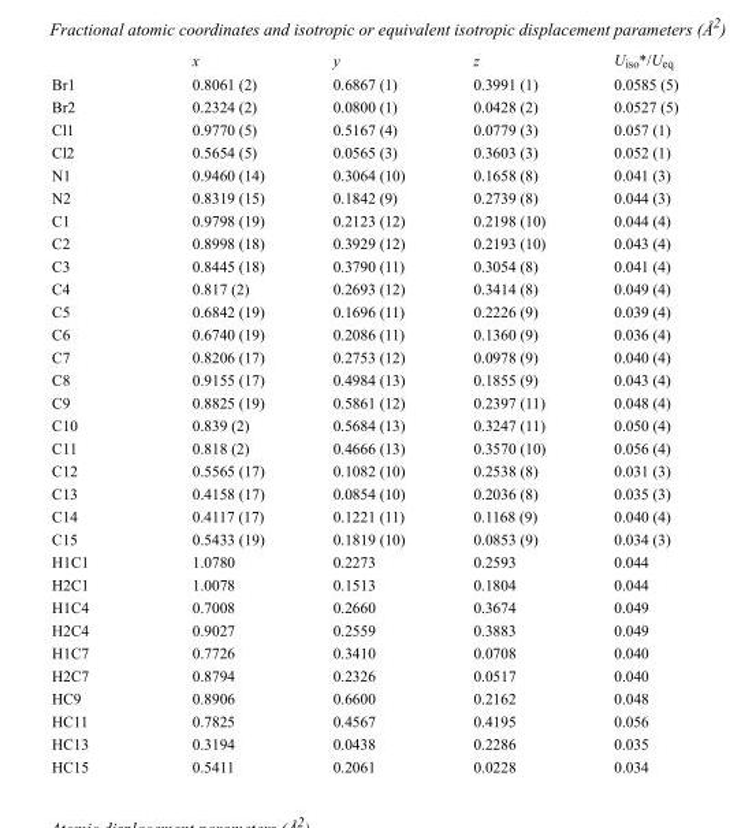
<table><thead><tr><td></td><td>x</td><td>y</td><td>z</td><td>U<sub>iso</sub>*/U<sub>eq</sub></td></tr></thead><tbody><tr><td>Br1</td><td>0.8061 (2)</td><td>0.6867 (1)</td><td>0.3991 (1)</td><td>0.0585 (5)</td></tr><tr><td>Br2</td><td>0.2324 (2)</td><td>0.0800 (1)</td><td>0.0428 (2)</td><td>0.0527 (5)</td></tr><tr><td>Cl1</td><td>0.9770 (5)</td><td>0.5167 (4)</td><td>0.0779 (3)</td><td>0.057 (1)</td></tr><tr><td>Cl2</td><td>0.5654 (5)</td><td>0.0565 (3)</td><td>0.3603 (3)</td><td>0.052 (1)</td></tr><tr><td>N1</td><td>0.9460 (14)</td><td>0.3064 (10)</td><td>0.1658 (8)</td><td>0.041 (3)</td></tr><tr><td>N2</td><td>0.8319 (15)</td><td>0.1842 (9)</td><td>0.2739 (8)</td><td>0.044 (3)</td></tr><tr><td>C1</td><td>0.9798 (19)</td><td>0.2123 (12)</td><td>0.2198 (10)</td><td>0.044 (4)</td></tr><tr><td>C2</td><td>0.8998 (18)</td><td>0.3929 (12)</td><td>0.2193 (10)</td><td>0.043 (4)</td></tr><tr><td>C3</td><td>0.8445 (18)</td><td>0.3790 (11)</td><td>0.3054 (8)</td><td>0.041 (4)</td></tr><tr><td>C4</td><td>0.817 (2)</td><td>0.2693 (12)</td><td>0.3414 (8)</td><td>0.049 (4)</td></tr><tr><td>C5</td><td>0.6842 (19)</td><td>0.1696 (11)</td><td>0.2226 (9)</td><td>0.039 (4)</td></tr><tr><td>C6</td><td>0.6740 (19)</td><td>0.2086 (11)</td><td>0.1360 (9)</td><td>0.036 (4)</td></tr><tr><td>C7</td><td>0.8206 (17)</td><td>0.2753 (12)</td><td>0.0978 (9)</td><td>0.040 (4)</td></tr><tr><td>C8</td><td>0.9155 (17)</td><td>0.4984 (13)</td><td>0.1855 (9)</td><td>0.043 (4)</td></tr><tr><td>C9</td><td>0.8825 (19)</td><td>0.5861 (12)</td><td>0.2397 (11)</td><td>0.048 (4)</td></tr><tr><td>C10</td><td>0.839 (2)</td><td>0.5684 (13)</td><td>0.3247 (11)</td><td>0.050 (4)</td></tr><tr><td>C11</td><td>0.818 (2)</td><td>0.4666 (13)</td><td>0.3570 (10)</td><td>0.056 (4)</td></tr><tr><td>C12</td><td>0.5565 (17)</td><td>0.1082 (10)</td><td>0.2538 (8)</td><td>0.031 (3)</td></tr><tr><td>C13</td><td>0.4158 (17)</td><td>0.0854 (10)</td><td>0.2036 (8)</td><td>0.035 (3)</td></tr><tr><td>C14</td><td>0.4117 (17)</td><td>0.1221 (11)</td><td>0.1168 (9)</td><td>0.040 (4)</td></tr><tr><td>C15</td><td>0.5433 (19)</td><td>0.1819 (10)</td><td>0.0853 (9)</td><td>0.034 (3)</td></tr><tr><td>H1C1</td><td>1.0780</td><td>0.2273</td><td>0.2593</td><td>0.044</td></tr><tr><td>H2C1</td><td>1.0078</td><td>0.1513</td><td>0.1804</td><td>0.044</td></tr><tr><td>H1C4</td><td>0.7008</td><td>0.2660</td><td>0.3674</td><td>0.049</td></tr><tr><td>H2C4</td><td>0.9027</td><td>0.2559</td><td>0.3883</td><td>0.049</td></tr><tr><td>H1C7</td><td>0.7726</td><td>0.3410</td><td>0.0708</td><td>0.040</td></tr><tr><td>H2C7</td><td>0.8794</td><td>0.2326</td><td>0.0517</td><td>0.040</td></tr><tr><td>HC9</td><td>0.8906</td><td>0.6600</td><td>0.2162</td><td>0.048</td></tr><tr><td>HC11</td><td>0.7825</td><td>0.4567</td><td>0.4195</td><td>0.056</td></tr><tr><td>HC13</td><td>0.3194</td><td>0.0438</td><td>0.2286</td><td>0.035</td></tr><tr><td>HC15</td><td>0.5411</td><td>0.2061</td><td>0.0228</td><td>0.034</td></tr></tbody></table>